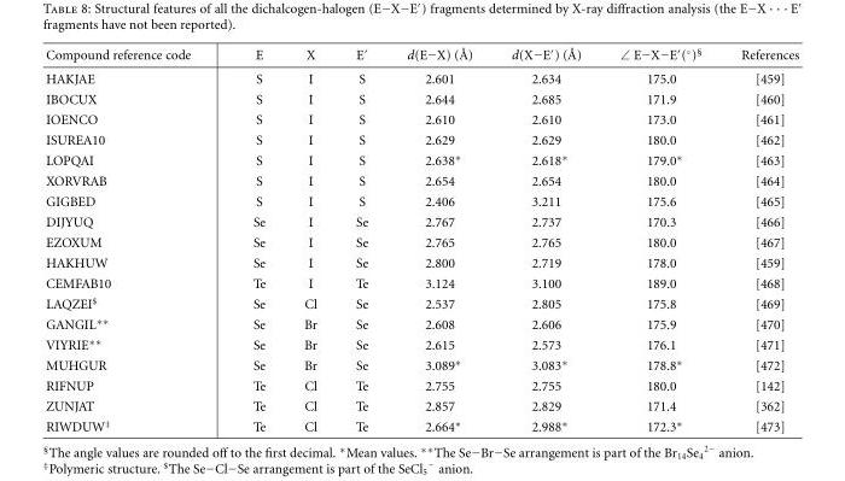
<table><thead><tr><td>Compound reference code</td><td>E</td><td>X</td><td>E′</td><td>d(E−X) ( ˚A)</td><td>d(X−E′) ( ˚A)</td><td>∠ E−X−E′(◦)§</td><td>References</td></tr></thead><tbody><tr><td>HAKJAE</td><td>S</td><td>I</td><td>S</td><td>2.601</td><td>2.634</td><td>175.0</td><td>[459]</td></tr><tr><td>IBOCUX</td><td>S</td><td>I</td><td>S</td><td>2.644</td><td>2.685</td><td>171.9</td><td>[460]</td></tr><tr><td>IOENCO</td><td>S</td><td>I</td><td>S</td><td>2.610</td><td>2.610</td><td>173.0</td><td>[461]</td></tr><tr><td>ISUREA10</td><td>S</td><td>I</td><td>S</td><td>2.629</td><td>2.629</td><td>180.0</td><td>[462]</td></tr><tr><td>LOPQAI</td><td>S</td><td>I</td><td>S</td><td>2.638∗</td><td>2.618∗</td><td>179.0∗</td><td>[463]</td></tr><tr><td>XORVRAB</td><td>S</td><td>I</td><td>S</td><td>2.654</td><td>2.654</td><td>180.0</td><td>[464]</td></tr><tr><td>GIGBED</td><td>S</td><td>I</td><td>S</td><td>2.406</td><td>3.211</td><td>175.6</td><td>[465]</td></tr><tr><td>DIJYUQ</td><td>Se</td><td>I</td><td>Se</td><td>2.767</td><td>2.737</td><td>170.3</td><td>[466]</td></tr><tr><td>EZOXUM</td><td>Se</td><td>I</td><td>Se</td><td>2.765</td><td>2.765</td><td>180.0</td><td>[467]</td></tr><tr><td>HAKHUW</td><td>Se</td><td>I</td><td>Se</td><td>2.800</td><td>2.719</td><td>178.0</td><td>[459]</td></tr><tr><td>CEMFAB10</td><td>Te</td><td>I</td><td>Te</td><td>3.124</td><td>3.100</td><td>189.0</td><td>[468]</td></tr><tr><td>LAQZEI<sup>$</sup></td><td>Se</td><td>Cl</td><td>Se</td><td>2.537</td><td>2.805</td><td>175.8</td><td>[469]</td></tr><tr><td>GANGIL∗∗</td><td>Se</td><td>Br</td><td>Se</td><td>2.608</td><td>2.606</td><td>175.9</td><td>[470]</td></tr><tr><td>VIYRIE∗∗</td><td>Se</td><td>Br</td><td>Se</td><td>2.615</td><td>2.573</td><td>176.1</td><td>[471]</td></tr><tr><td>MUHGUR</td><td>Se</td><td>Br</td><td>Se</td><td>3.089∗</td><td>3.083∗</td><td>178.8∗</td><td>[472]</td></tr><tr><td>RIFNUP</td><td>Te</td><td>Cl</td><td>Te</td><td>2.755</td><td>2.755</td><td>180.0</td><td>[142]</td></tr><tr><td>ZUNJAT</td><td>Te</td><td>Cl</td><td>Te</td><td>2.857</td><td>2.829</td><td>171.4</td><td>[362]</td></tr><tr><td>RIWDUW<sup>‡</sup></td><td>Te</td><td>Cl</td><td>Te</td><td>2.664∗</td><td>2.988∗</td><td>172.3∗</td><td>[473]</td></tr></tbody></table>